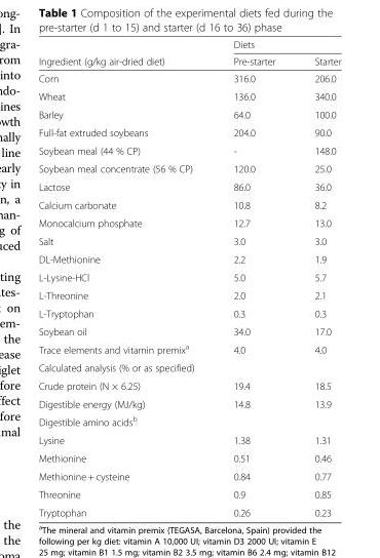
<table><thead><tr><td rowspan="2">Ingredient (g/kg air-dried diet)</td><td colspan="2">Diets</td></tr><tr><td>Pre-starter</td><td>Starter</td></tr></thead><tbody><tr><td>Corn</td><td>316.0</td><td>206.0</td></tr><tr><td>Wheat</td><td>136.0</td><td>340.0</td></tr><tr><td>Barley</td><td>64.0</td><td>100.0</td></tr><tr><td>Full-fat extruded soybeans</td><td>204.0</td><td>90.0</td></tr><tr><td>Soybean meal (44 % CP)</td><td>-</td><td>148.0</td></tr><tr><td>Soybean meal concentrate (56 % CP)</td><td>120.0</td><td>25.0</td></tr><tr><td>Lactose</td><td>86.0</td><td>36.0</td></tr><tr><td>Calcium carbonate</td><td>10.8</td><td>8.2</td></tr><tr><td>Monocalcium phosphate</td><td>12.7</td><td>13.0</td></tr><tr><td>Salt</td><td>3.0</td><td>3.0</td></tr><tr><td>DL-Methionine</td><td>2.2</td><td>1.9</td></tr><tr><td>L-Lysine-HCl</td><td>5.0</td><td>5.7</td></tr><tr><td>L-Threonine</td><td>2.0</td><td>2.1</td></tr><tr><td>L-Tryptophan</td><td>0.3</td><td>0.3</td></tr><tr><td>Soybean oil</td><td>34.0</td><td>17.0</td></tr><tr><td>Trace elements and vitamin premix<sup>a</sup></td><td>4.0</td><td>4.0</td></tr><tr><td colspan="3">Calculated analysis (% or as specified)</td></tr><tr><td>Crude protein (N × 6.25)</td><td>19.4</td><td>18.5</td></tr><tr><td>Digestible energy (MJ/kg)</td><td>14.8</td><td>13.9</td></tr><tr><td colspan="3">Digestible amino acids<sup>b</sup></td></tr><tr><td>Lysine</td><td>1.38</td><td>1.31</td></tr><tr><td>Methionine</td><td>0.51</td><td>0.46</td></tr><tr><td>Methionine + cysteine</td><td>0.84</td><td>0.77</td></tr><tr><td>Threonine</td><td>0.9</td><td>0.85</td></tr><tr><td>Tryptophan</td><td>0.26</td><td>0.23</td></tr></tbody></table>